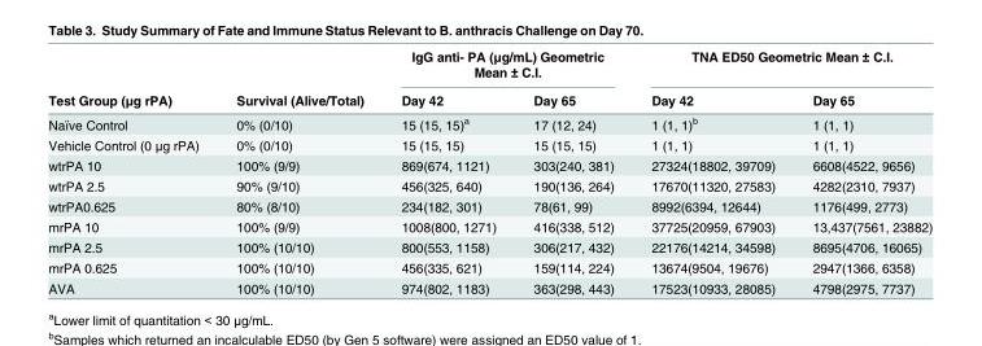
<table><thead><tr><td rowspan="2">Test Group (μg rPA)</td><td rowspan="2">Survival (Alive/Total)</td><td colspan="2">IgG anti- PA (μg/mL) Geometric Mean ± C.I.</td><td colspan="2">TNA ED50 Geometric Mean ± C.I.</td></tr><tr><td>Day 42</td><td>Day 65</td><td>Day 42</td><td>Day 65</td></tr></thead><tbody><tr><td>Naïve Control</td><td>0% (0/10)</td><td>15 (15, 15)<sup>a</sup></td><td>17 (12, 24)</td><td>1 (1, 1)<sup>b</sup></td><td>1 (1, 1)</td></tr><tr><td>Vehicle Control (0 μg rPA)</td><td>0% (0/10)</td><td>15 (15, 15)</td><td>15 (15, 15)</td><td>1 (1, 1)</td><td>1 (1, 1)</td></tr><tr><td>wtrPA 10</td><td>100% (9/9)</td><td>869(674, 1121)</td><td>303(240, 381)</td><td>27324(18802, 39709)</td><td>6608(4522, 9656)</td></tr><tr><td>wtrPA 2.5</td><td>90% (9/10)</td><td>456(325, 640)</td><td>190(136, 264)</td><td>17670(11320, 27583)</td><td>4282(2310, 7937)</td></tr><tr><td>wtrPA0.625</td><td>80% (8/10)</td><td>234(182, 301)</td><td>78(61, 99)</td><td>8992(6394, 12644)</td><td>1176(499, 2773)</td></tr><tr><td>mrPA 10</td><td>100% (9/9)</td><td>1008(800, 1271)</td><td>416(338, 512)</td><td>37725(20959, 67903)</td><td>13,437(7561, 23882)</td></tr><tr><td>mrPA 2.5</td><td>100% (10/10)</td><td>800(553, 1158)</td><td>306(217, 432)</td><td>22176(14214, 34598)</td><td>8695(4706, 16065)</td></tr><tr><td>mrPA 0.625</td><td>100% (10/10)</td><td>456(335, 621)</td><td>159(114, 224)</td><td>13674(9504, 19676)</td><td>2947(1366, 6358)</td></tr><tr><td>AVA</td><td>100% (10/10)</td><td>974(802, 1183)</td><td>363(298, 443)</td><td>17523(10933, 28085)</td><td>4798(2975, 7737)</td></tr></tbody></table>